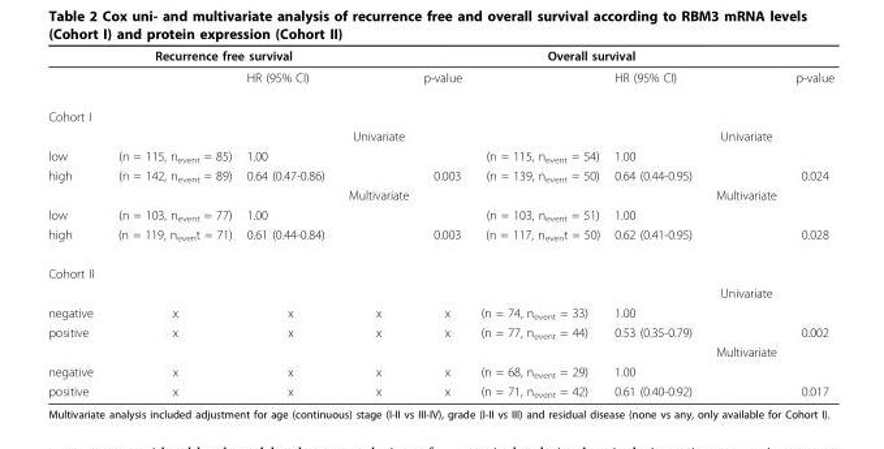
<table><thead><tr><td rowspan="2"></td><td colspan="2">Recurrence free survival</td><td rowspan="2"></td><td rowspan="2">p-value</td><td colspan="2">Overall survival</td><td rowspan="2"></td><td rowspan="2">p-value</td></tr><tr><td></td><td>HR (95% CI)</td><td></td><td>HR (95% CI)</td></tr></thead><tbody><tr><td colspan="9">Cohort I</td></tr><tr><td></td><td></td><td></td><td>Univariate</td><td></td><td></td><td></td><td>Univariate</td><td></td></tr><tr><td>low</td><td>(n = 115, n<sub>event</sub> = 85)</td><td>1.00</td><td></td><td></td><td>(n = 115, n<sub>event</sub> = 54)</td><td>1.00</td><td></td><td></td></tr><tr><td rowspan="2">high</td><td>(n = 142, n<sub>event</sub> = 89)</td><td>0.64 (0.47-0.86)</td><td></td><td>0.003</td><td>(n = 139, n<sub>event</sub> = 50)</td><td>0.64 (0.44-0.95)</td><td></td><td>0.024</td></tr><tr><td></td><td></td><td>Multivariate</td><td></td><td></td><td></td><td>Multivariate</td><td></td></tr><tr><td>low</td><td>(n = 103, n<sub>event</sub> = 77)</td><td>1.00</td><td></td><td></td><td>(n = 103, n<sub>event</sub> = 51)</td><td>1.00</td><td></td><td></td></tr><tr><td>high</td><td>(n = 119, n<sub>even</sub>t = 71)</td><td>0.61 (0.44-0.84)</td><td></td><td>0.003</td><td>(n = 117, n<sub>even</sub>t = 50)</td><td>0.62 (0.41-0.95)</td><td></td><td>0.028</td></tr><tr><td colspan="9">Cohort II</td></tr><tr><td></td><td></td><td></td><td></td><td></td><td></td><td></td><td>Univariate</td><td></td></tr><tr><td>negative</td><td>x</td><td>x</td><td>x</td><td>x</td><td>(n = 74, n<sub>event</sub> = 33)</td><td>1.00</td><td></td><td></td></tr><tr><td rowspan="2">positive</td><td>x</td><td>x</td><td>x</td><td>x</td><td>(n = 77, n<sub>event</sub> = 44)</td><td>0.53 (0.35-0.79)</td><td></td><td>0.002</td></tr><tr><td></td><td></td><td></td><td></td><td></td><td></td><td>Multivariate</td><td></td></tr><tr><td>negative</td><td>x</td><td>x</td><td>x</td><td>x</td><td>(n = 68, n<sub>event</sub> = 29)</td><td>1.00</td><td></td><td></td></tr><tr><td>positive</td><td>x</td><td>x</td><td>x</td><td>x</td><td>(n = 71, n<sub>event</sub> = 42)</td><td>0.61 (0.40-0.92)</td><td></td><td>0.017</td></tr></tbody></table>